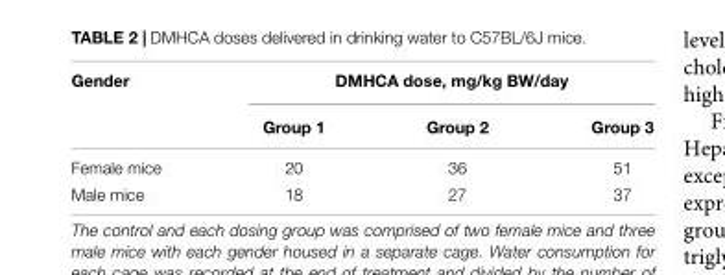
<table><thead><tr><td rowspan="2">Gender</td><td colspan="3">DMHCA dose, mg/kg BW/day</td></tr><tr><td>Group 1</td><td>Group 2</td><td>Group 3</td></tr></thead><tbody><tr><td>Female mice</td><td>20</td><td>36</td><td>51</td></tr><tr><td>Male mice</td><td>18</td><td>27</td><td>37</td></tr></tbody></table>